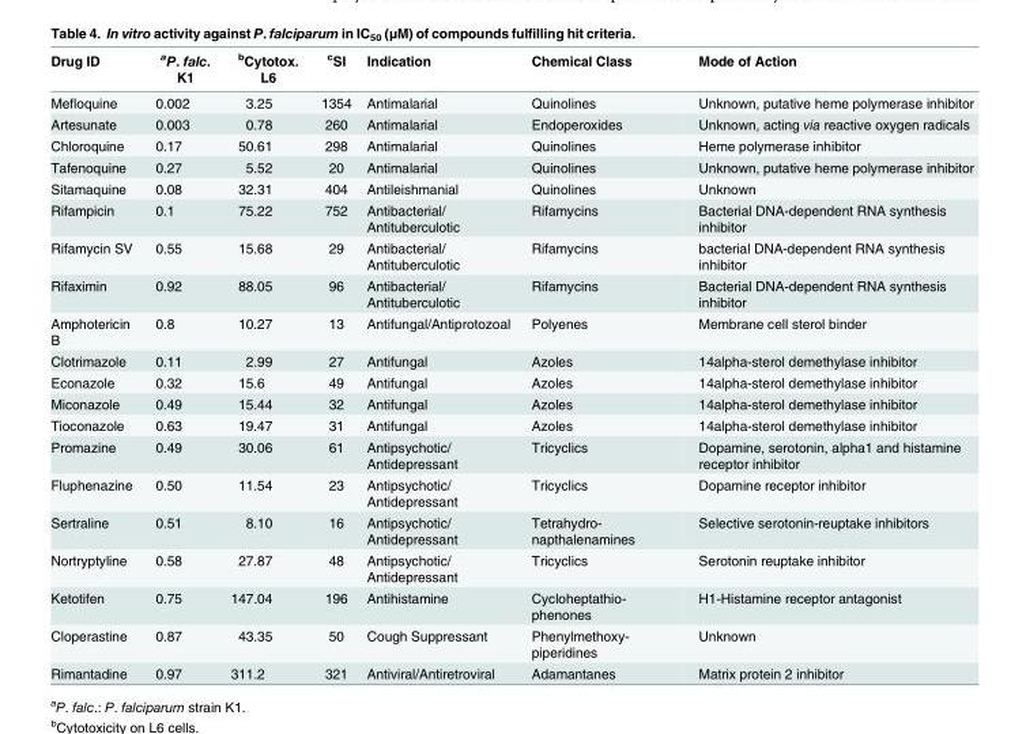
<table><thead><tr><td>Drug ID</td><td><sup>a</sup>P. falc. K1</td><td><sup>b</sup>Cytotox. L6</td><td><sup>c</sup>SI</td><td>Indication</td><td>Chemical Class</td><td>Mode of Action</td></tr></thead><tbody><tr><td>Mefloquine</td><td>0.002</td><td>3.25</td><td>1354</td><td>Antimalarial</td><td>Quinolines</td><td>Unknown, putative heme polymerase inhibitor</td></tr><tr><td>Artesunate</td><td>0.003</td><td>0.78</td><td>260</td><td>Antimalarial</td><td>Endoperoxides</td><td>Unknown, acting via reactive oxygen radicals</td></tr><tr><td>Chloroquine</td><td>0.17</td><td>50.61</td><td>298</td><td>Antimalarial</td><td>Quinolines</td><td>Heme polymerase inhibitor</td></tr><tr><td>Tafenoquine</td><td>0.27</td><td>5.52</td><td>20</td><td>Antimalarial</td><td>Quinolines</td><td>Unknown, putative heme polymerase inhibitor</td></tr><tr><td>Sitamaquine</td><td>0.08</td><td>32.31</td><td>404</td><td>Antileishmanial</td><td>Quinolines</td><td>Unknown</td></tr><tr><td>Rifampicin</td><td>0.1</td><td>75.22</td><td>752</td><td>Antibacterial/ Antituberculotic</td><td>Rifamycins</td><td>Bacterial DNA-dependent RNA synthesis inhibitor</td></tr><tr><td>Rifamycin SV</td><td>0.55</td><td>15.68</td><td>29</td><td>Antibacterial/ Antituberculotic</td><td>Rifamycins</td><td>bacterial DNA-dependent RNA synthesis inhibitor</td></tr><tr><td>Rifaximin</td><td>0.92</td><td>88.05</td><td>96</td><td>Antibacterial/ Antituberculotic</td><td>Rifamycins</td><td>Bacterial DNA-dependent RNA synthesis inhibitor</td></tr><tr><td>Amphotericin B</td><td>0.8</td><td>10.27</td><td>13</td><td>Antifungal/Antiprotozoal</td><td>Polyenes</td><td>Membrane cell sterol binder</td></tr><tr><td>Clotrimazole</td><td>0.11</td><td>2.99</td><td>27</td><td>Antifungal</td><td>Azoles</td><td>14alpha-sterol demethylase inhibitor</td></tr><tr><td>Econazole</td><td>0.32</td><td>15.6</td><td>49</td><td>Antifungal</td><td>Azoles</td><td>14alpha-sterol demethylase inhibitor</td></tr><tr><td>Miconazole</td><td>0.49</td><td>15.44</td><td>32</td><td>Antifungal</td><td>Azoles</td><td>14alpha-sterol demethylase inhibitor</td></tr><tr><td>Tioconazole</td><td>0.63</td><td>19.47</td><td>31</td><td>Antifungal</td><td>Azoles</td><td>14alpha-sterol demethylase inhibitor</td></tr><tr><td>Promazine</td><td>0.49</td><td>30.06</td><td>61</td><td>Antipsychotic/ Antidepressant</td><td>Tricyclics</td><td>Dopamine, serotonin, alpha1 and histamine receptor inhibitor</td></tr><tr><td>Fluphenazine</td><td>0.50</td><td>11.54</td><td>23</td><td>Antipsychotic/ Antidepressant</td><td>Tricyclics</td><td>Dopamine receptor inhibitor</td></tr><tr><td>Sertraline</td><td>0.51</td><td>8.10</td><td>16</td><td>Antipsychotic/ Antidepressant</td><td>Tetrahydro- napthalenamines</td><td>Selective serotonin-reuptake inhibitors</td></tr><tr><td>Nortryptyline</td><td>0.58</td><td>27.87</td><td>48</td><td>Antipsychotic/ Antidepressant</td><td>Tricyclics</td><td>Serotonin reuptake inhibitor</td></tr><tr><td>Ketotifen</td><td>0.75</td><td>147.04</td><td>196</td><td>Antihistamine</td><td>Cycloheptathio- phenones</td><td>H1-Histamine receptor antagonist</td></tr><tr><td>Cloperastine</td><td>0.87</td><td>43.35</td><td>50</td><td>Cough Suppressant</td><td>Phenylmethoxy- piperidines</td><td>Unknown</td></tr><tr><td>Rimantadine</td><td>0.97</td><td>311.2</td><td>321</td><td>Antiviral/Antiretroviral</td><td>Adamantanes</td><td>Matrix protein 2 inhibitor</td></tr></tbody></table>